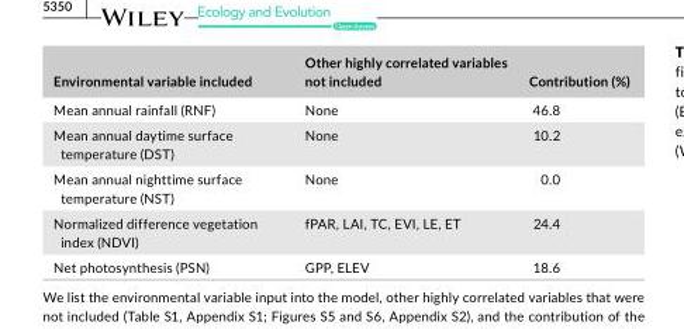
<table><thead><tr><td>Environmental variable included</td><td>Other highly correlated variables not included</td><td>Contribution (%)</td></tr></thead><tbody><tr><td>Mean annual rainfall (RNF)</td><td>None</td><td>46.8</td></tr><tr><td>Mean annual daytime surface temperature (DST)</td><td>None</td><td>10.2</td></tr><tr><td>Mean annual nighttime surface temperature (NST)</td><td>None</td><td>0.0</td></tr><tr><td>Normalized difference vegetation index (NDVI)</td><td>fPAR, LAI, TC, EVI, LE, ET</td><td>24.4</td></tr><tr><td>Net photosynthesis (PSN)</td><td>GPP, ELEV</td><td>18.6</td></tr></tbody></table>